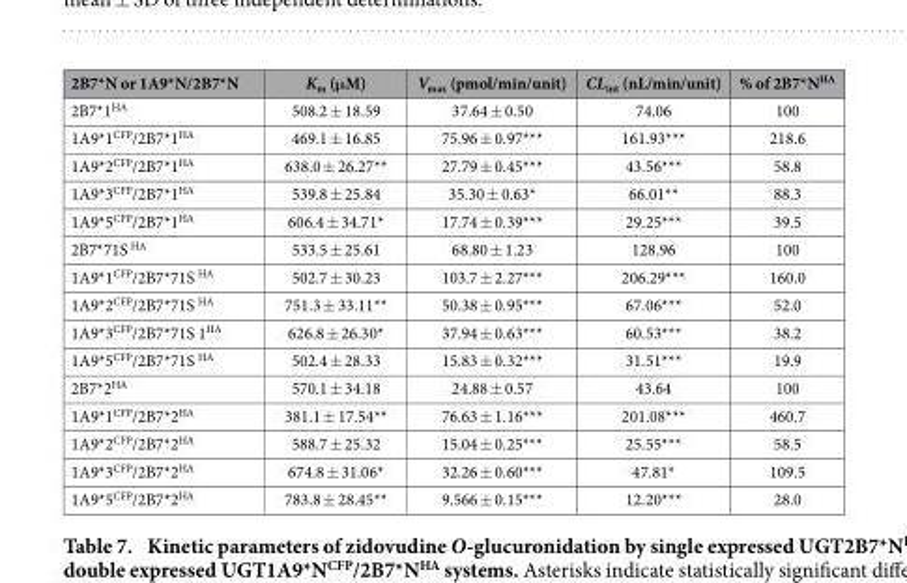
<table><thead><tr><td>2B7*N or 1A9*N/2B7*N</td><td>K<sub>m</sub> (μM)</td><td>V<sub>max</sub> (pmol/min/unit)</td><td>CL<sub>int</sub> (nL/min/unit)</td><td>% of 2B7*N<sup>HA</sup></td></tr></thead><tbody><tr><td>2B7*1<sup>HA</sup></td><td>508.2 ± 18.59</td><td>37.64 ± 0.50</td><td>74.06</td><td>100</td></tr><tr><td>1A9*1<sup>CFP</sup>/2B7*1<sup>HA</sup></td><td>469.1 ± 16.85</td><td>75.96 ± 0.97***</td><td>161.93***</td><td>218.6</td></tr><tr><td>1A9*2<sup>CFP</sup>/2B7*1<sup>HA</sup></td><td>638.0 ± 26.27**</td><td>27.79 ± 0.45***</td><td>43.56***</td><td>58.8</td></tr><tr><td>1A9*3<sup>CFP</sup>/2B7*1<sup>HA</sup></td><td>539.8 ± 25.84</td><td>35.30 ± 0.63*</td><td>66.01**</td><td>88.3</td></tr><tr><td>1A9*5<sup>CFP</sup>/2B7*1<sup>HA</sup></td><td>606.4 ± 34.71*</td><td>17.74 ± 0.39***</td><td>29.25***</td><td>39.5</td></tr><tr><td>2B7*71S <sup>HA</sup></td><td>533.5 ± 25.61</td><td>68.80 ± 1.23</td><td>128.96</td><td>100</td></tr><tr><td>1A9*1<sup>CFP</sup>/2B7*71S <sup>HA</sup></td><td>502.7 ± 30.23</td><td>103.7 ± 2.27***</td><td>206.29***</td><td>160.0</td></tr><tr><td>1A9*2<sup>CFP</sup>/2B7*71S <sup>HA</sup></td><td>751.3 ± 33.11**</td><td>50.38 ± 0.95***</td><td>67.06***</td><td>52.0</td></tr><tr><td>1A9*3<sup>CFP</sup>/2B7*71S 1<sup>HA</sup></td><td>626.8 ± 26.30*</td><td>37.94 ± 0.63***</td><td>60.53***</td><td>38.2</td></tr><tr><td>1A9*5<sup>CFP</sup>/2B7*71S <sup>HA</sup></td><td>502.4 ± 28.33</td><td>15.83 ± 0.32***</td><td>31.51***</td><td>19.9</td></tr><tr><td>2B7*2<sup>HA</sup></td><td>570.1 ± 34.18</td><td>24.88 ± 0.57</td><td>43.64</td><td>100</td></tr><tr><td>1A9*1<sup>CFP</sup>/2B7*2<sup>HA</sup></td><td>381.1 ± 17.54**</td><td>76.63 ± 1.16***</td><td>201.08***</td><td>460.7</td></tr><tr><td>1A9*2<sup>CFP</sup>/2B7*2<sup>HA</sup></td><td>588.7 ± 25.32</td><td>15.04 ± 0.25***</td><td>25.55***</td><td>58.5</td></tr><tr><td>1A9*3<sup>CFP</sup>/2B7*2<sup>HA</sup></td><td>674.8 ± 31.06*</td><td>32.26 ± 0.60***</td><td>47.81*</td><td>109.5</td></tr><tr><td>1A9*5<sup>CFP</sup>/2B7*2<sup>HA</sup></td><td>783.8 ± 28.45**</td><td>9.566 ± 0.15***</td><td>12.20***</td><td>28.0</td></tr></tbody></table>